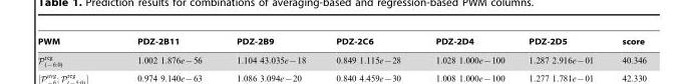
<table><thead><tr><td>PWM</td><td>PDZ-2B11</td><td>PDZ-2B9</td><td>PDZ-2C6</td><td>PDZ-2D4</td><td>PDZ-2D5</td><td>score</td></tr></thead><tbody></tbody></table>